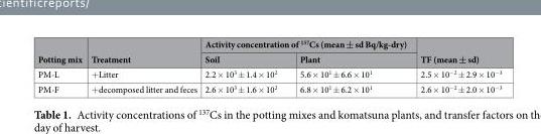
<table><thead><tr><td rowspan="2">Potting mix</td><td rowspan="2">Treatment</td><td colspan="2">Activity concentration of <sup>137</sup>Cs (mean ± sd Bq/kg-dry)</td><td rowspan="2">TF (mean ± sd)</td></tr><tr><td>Soil</td><td>Plant</td></tr></thead><tbody><tr><td>PM-L</td><td>+Litter</td><td>2.2 × 10<sup>3</sup> ± 1.4 × 10<sup>2</sup></td><td>5.6 × 10<sup>1</sup> ± 6.6 × 10<sup>1</sup></td><td>2.5 × 10<sup>−2</sup> ± 2.9 × 10<sup>−3</sup></td></tr><tr><td>PM-F</td><td>+decomposed litter and feces</td><td>2.6 × 10<sup>3</sup> ± 1.6 × 10<sup>2</sup></td><td>6.8 × 10<sup>1</sup> ± 6.2 × 10<sup>1</sup></td><td>2.6 × 10<sup>−2</sup> ± 2.0 × 10<sup>−3</sup></td></tr></tbody></table>